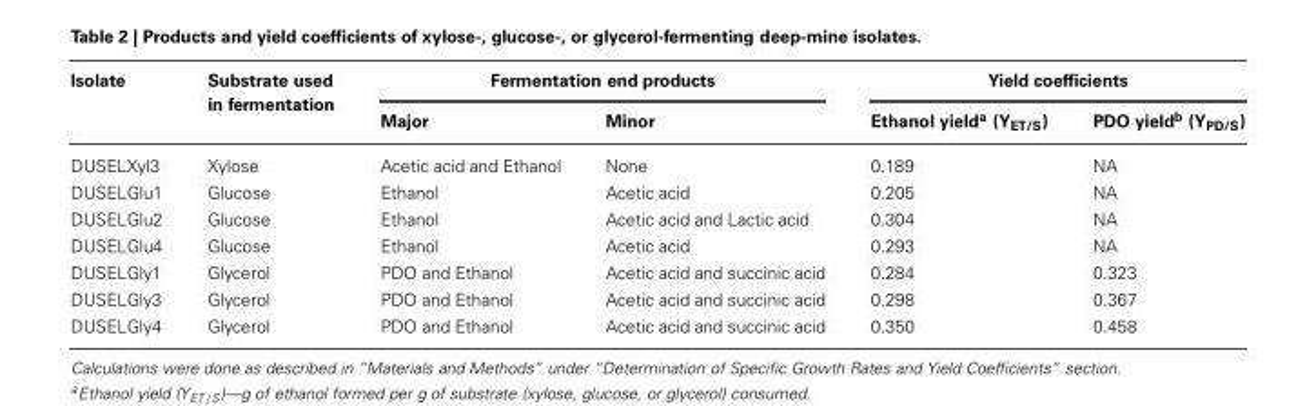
<table><thead><tr><td rowspan="2">Isolate</td><td rowspan="2">Substrate used in fermentation</td><td colspan="2">Fermentation end products</td><td colspan="2">Yield coefficients</td></tr><tr><td>Major</td><td>Minor</td><td>Ethanol yield<sup>a</sup> (Y<sub>ET/S</sub>)</td><td>PDO yield<sup>b</sup> (Y<sub>PD/S</sub>)</td></tr></thead><tbody><tr><td>DUSELXyl3</td><td>Xylose</td><td>Acetic acid and Ethanol</td><td>None</td><td>0.189</td><td>NA</td></tr><tr><td>DUSELGlu1</td><td>Glucose</td><td>Ethanol</td><td>Acetic acid</td><td>0.205</td><td>NA</td></tr><tr><td>DUSELGlu2</td><td>Glucose</td><td>Ethanol</td><td>Acetic acid and Lactic acid</td><td>0.304</td><td>NA</td></tr><tr><td>DUSELGlu4</td><td>Glucose</td><td>Ethanol</td><td>Acetic acid</td><td>0.293</td><td>NA</td></tr><tr><td>DUSELGly1</td><td>Glycerol</td><td>PDO and Ethanol</td><td>Acetic acid and succinic acid</td><td>0.284</td><td>0.323</td></tr><tr><td>DUSELGly3</td><td>Glycerol</td><td>PDO and Ethanol</td><td>Acetic acid and succinic acid</td><td>0.298</td><td>0.367</td></tr><tr><td>DUSELGly4</td><td>Glycerol</td><td>PDO and Ethanol</td><td>Acetic acid and succinic acid</td><td>0.350</td><td>0.458</td></tr></tbody></table>